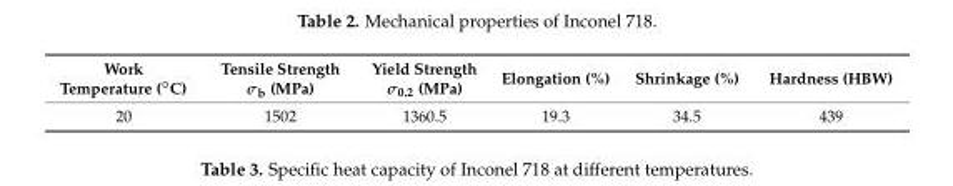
<table><thead><tr><td>Work Temperature (◦C)</td><td>Tensile Strength σ<sub>b</sub> (MPa)</td><td>Yield Strength σ<sub>0.2</sub> (MPa)</td><td>Elongation (%)</td><td>Shrinkage (%)</td><td>Hardness (HBW)</td></tr></thead><tbody><tr><td>20</td><td>1502</td><td>1360.5</td><td>19.3</td><td>34.5</td><td>439</td></tr></tbody></table>